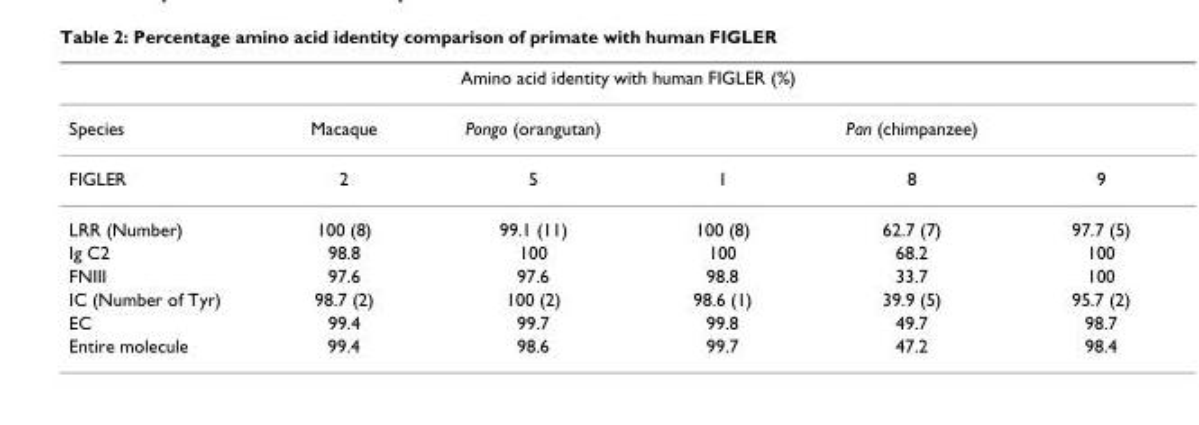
<table><thead><tr><td colspan="6">Amino acid identity with human FIGLER (%)</td></tr><tr><td rowspan="2">Species FIGLER</td><td rowspan="2">Macaque 2</td><td rowspan="2">Pongo (orangutan) 5</td><td colspan="3">Pan (chimpanzee)</td></tr><tr><td>1</td><td>8</td><td>9</td></tr></thead><tbody><tr><td>LRR (Number)</td><td>100 (8)</td><td>99.1 (11)</td><td>100 (8)</td><td>62.7 (7)</td><td>97.7 (5)</td></tr><tr><td>Ig C2</td><td>98.8</td><td>100</td><td>100</td><td>68.2</td><td>100</td></tr><tr><td>FNIII</td><td>97.6</td><td>97.6</td><td>98.8</td><td>33.7</td><td>100</td></tr><tr><td>IC (Number of Tyr)</td><td>98.7 (2)</td><td>100 (2)</td><td>98.6 (1)</td><td>39.9 (5)</td><td>95.7 (2)</td></tr><tr><td>EC</td><td>99.4</td><td>99.7</td><td>99.8</td><td>49.7</td><td>98.7</td></tr><tr><td>Entire molecule</td><td>99.4</td><td>98.6</td><td>99.7</td><td>47.2</td><td>98.4</td></tr></tbody></table>